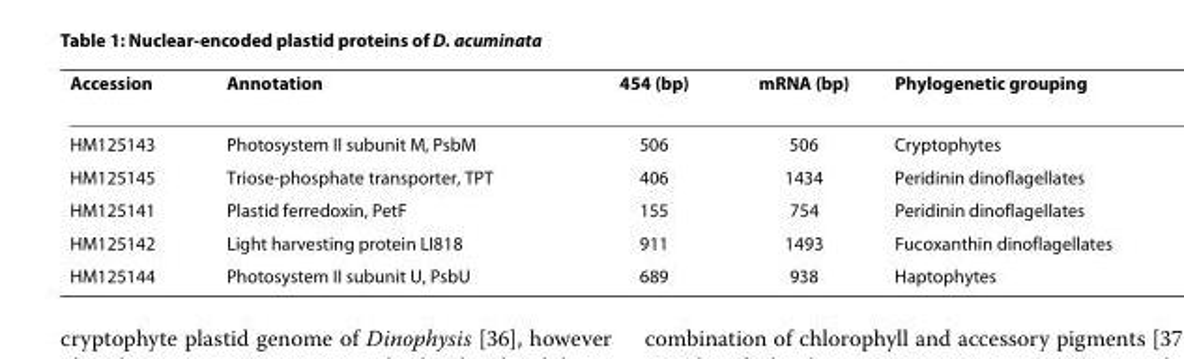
<table><thead><tr><td>Accession</td><td>Annotation</td><td>454 (bp)</td><td>mRNA (bp)</td><td>Phylogenetic grouping</td></tr></thead><tbody><tr><td>HM125143</td><td>Photosystem II subunit M, PsbM</td><td>506</td><td>506</td><td>Cryptophytes</td></tr><tr><td>HM125145</td><td>Triose-phosphate transporter, TPT</td><td>406</td><td>1434</td><td>Peridinin dinoflagellates</td></tr><tr><td>HM125141</td><td>Plastid ferredoxin, PetF</td><td>155</td><td>754</td><td>Peridinin dinoflagellates</td></tr><tr><td>HM125142</td><td>Light harvesting protein LI818</td><td>911</td><td>1493</td><td>Fucoxanthin dinoflagellates</td></tr><tr><td>HM125144</td><td>Photosystem II subunit U, PsbU</td><td>689</td><td>938</td><td>Haptophytes</td></tr></tbody></table>